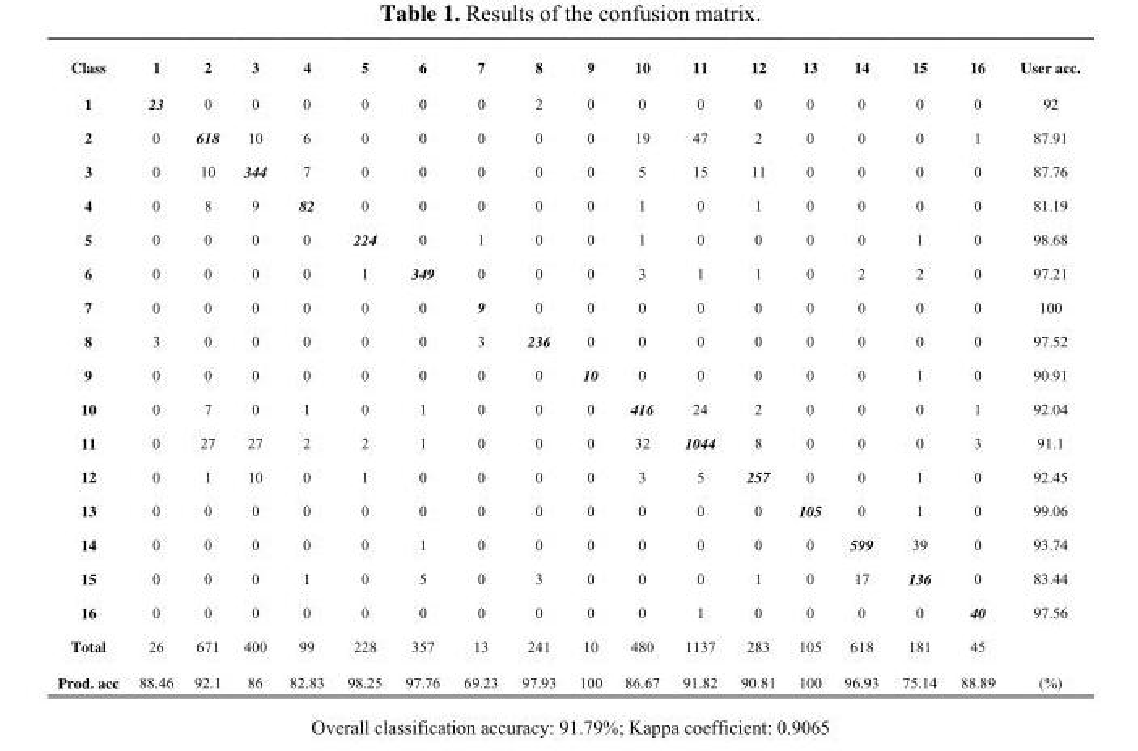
<table><thead><tr><td>Class</td><td>1</td><td>2</td><td>3</td><td>4</td><td>5</td><td>6</td><td>7</td><td>8</td><td>9</td><td>10</td><td>11</td><td>12</td><td>13</td><td>14</td><td>15</td><td>16</td><td>User acc.</td></tr></thead><tbody><tr><td>1</td><td>23</td><td>0</td><td>0</td><td>0</td><td>0</td><td>0</td><td>0</td><td>2</td><td>0</td><td>0</td><td>0</td><td>0</td><td>0</td><td>0</td><td>0</td><td>0</td><td>92</td></tr><tr><td>2</td><td>0</td><td>618</td><td>10</td><td>6</td><td>0</td><td>0</td><td>0</td><td>0</td><td>0</td><td>19</td><td>47</td><td>2</td><td>0</td><td>0</td><td>0</td><td>1</td><td>87.91</td></tr><tr><td>3</td><td>0</td><td>10</td><td>344</td><td>7</td><td>0</td><td>0</td><td>0</td><td>0</td><td>0</td><td>5</td><td>15</td><td>11</td><td>0</td><td>0</td><td>0</td><td>0</td><td>87.76</td></tr><tr><td>4</td><td>0</td><td>8</td><td>9</td><td>82</td><td>0</td><td>0</td><td>0</td><td>0</td><td>0</td><td>1</td><td>0</td><td>1</td><td>0</td><td>0</td><td>0</td><td>0</td><td>81.19</td></tr><tr><td>5</td><td>0</td><td>0</td><td>0</td><td>0</td><td>224</td><td>0</td><td>1</td><td>0</td><td>0</td><td>1</td><td>0</td><td>0</td><td>0</td><td>0</td><td>1</td><td>0</td><td>98.68</td></tr><tr><td>6</td><td>0</td><td>0</td><td>0</td><td>0</td><td>1</td><td>349</td><td>0</td><td>0</td><td>0</td><td>3</td><td>1</td><td>1</td><td>0</td><td>2</td><td>2</td><td>0</td><td>97.21</td></tr><tr><td>7</td><td>0</td><td>0</td><td>0</td><td>0</td><td>0</td><td>0</td><td>9</td><td>0</td><td>0</td><td>0</td><td>0</td><td>0</td><td>0</td><td>0</td><td>0</td><td>0</td><td>100</td></tr><tr><td>8</td><td>3</td><td>0</td><td>0</td><td>0</td><td>0</td><td>0</td><td>3</td><td>236</td><td>0</td><td>0</td><td>0</td><td>0</td><td>0</td><td>0</td><td>0</td><td>0</td><td>97.52</td></tr><tr><td>9</td><td>0</td><td>0</td><td>0</td><td>0</td><td>0</td><td>0</td><td>0</td><td>0</td><td>10</td><td>0</td><td>0</td><td>0</td><td>0</td><td>0</td><td>1</td><td>0</td><td>90.91</td></tr><tr><td>10</td><td>0</td><td>7</td><td>0</td><td>1</td><td>0</td><td>1</td><td>0</td><td>0</td><td>0</td><td>416</td><td>24</td><td>2</td><td>0</td><td>0</td><td>0</td><td>1</td><td>92.04</td></tr><tr><td>11</td><td>0</td><td>27</td><td>27</td><td>2</td><td>2</td><td>1</td><td>0</td><td>0</td><td>0</td><td>32</td><td>1044</td><td>8</td><td>0</td><td>0</td><td>0</td><td>3</td><td>91.1</td></tr><tr><td>12</td><td>0</td><td>1</td><td>10</td><td>0</td><td>1</td><td>0</td><td>0</td><td>0</td><td>0</td><td>3</td><td>5</td><td>257</td><td>0</td><td>0</td><td>1</td><td>0</td><td>92.45</td></tr><tr><td>13</td><td>0</td><td>0</td><td>0</td><td>0</td><td>0</td><td>0</td><td>0</td><td>0</td><td>0</td><td>0</td><td>0</td><td>0</td><td>105</td><td>0</td><td>1</td><td>0</td><td>99.06</td></tr><tr><td>14</td><td>0</td><td>0</td><td>0</td><td>0</td><td>0</td><td>1</td><td>0</td><td>0</td><td>0</td><td>0</td><td>0</td><td>0</td><td>0</td><td>599</td><td>39</td><td>0</td><td>93.74</td></tr><tr><td>15</td><td>0</td><td>0</td><td>0</td><td>1</td><td>0</td><td>5</td><td>0</td><td>3</td><td>0</td><td>0</td><td>0</td><td>1</td><td>0</td><td>17</td><td>136</td><td>0</td><td>83.44</td></tr><tr><td>16</td><td>0</td><td>0</td><td>0</td><td>0</td><td>0</td><td>0</td><td>0</td><td>0</td><td>0</td><td>0</td><td>1</td><td>0</td><td>0</td><td>0</td><td>0</td><td>40</td><td>97.56</td></tr><tr><td>Total</td><td>26</td><td>671</td><td>400</td><td>99</td><td>228</td><td>357</td><td>13</td><td>241</td><td>10</td><td>480</td><td>1137</td><td>283</td><td>105</td><td>618</td><td>181</td><td>45</td><td></td></tr><tr><td>Prod. acc</td><td>88.46</td><td>92.1</td><td>86</td><td>82.83</td><td>98.25</td><td>97.76</td><td>69.23</td><td>97.93</td><td>100</td><td>86.67</td><td>91.82</td><td>90.81</td><td>100</td><td>96.93</td><td>75.14</td><td>88.89</td><td>(%)</td></tr></tbody></table>